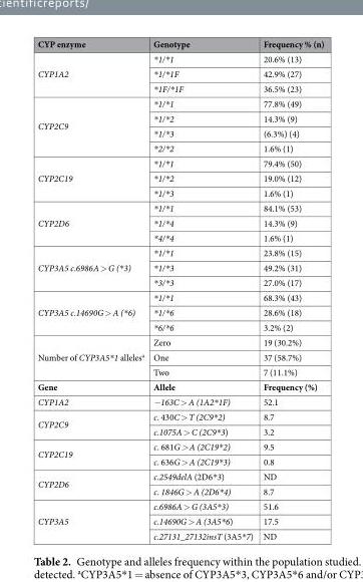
<table><thead><tr><td>CYP enzyme</td><td>Genotype</td><td>Frequency % (n)</td></tr></thead><tbody><tr><td rowspan="3">CYP1A2</td><td>*1/*1</td><td>20.6% (13)</td></tr><tr><td>*1/*1F</td><td>42.9% (27)</td></tr><tr><td>*1F/*1F</td><td>36.5% (23)</td></tr><tr><td rowspan="4">CYP2C9</td><td>*1/*1</td><td>77.8% (49)</td></tr><tr><td>*1/*2</td><td>14.3% (9)</td></tr><tr><td>*1/*3</td><td>(6.3%) (4)</td></tr><tr><td>*2/*2</td><td>1.6% (1)</td></tr><tr><td rowspan="3">CYP2C19</td><td>*1/*1</td><td>79.4% (50)</td></tr><tr><td>*1/*2</td><td>19.0% (12)</td></tr><tr><td>*1/*3</td><td>1.6% (1)</td></tr><tr><td rowspan="3">CYP2D6</td><td>*1/*1</td><td>84.1% (53)</td></tr><tr><td>*1/*4</td><td>14.3% (9)</td></tr><tr><td>*4/*4</td><td>1.6% (1)</td></tr><tr><td rowspan="3">CYP3A5 c.6986A &gt; G (*3)</td><td>*1/*1</td><td>23.8% (15)</td></tr><tr><td>*1/*3</td><td>49.2% (31)</td></tr><tr><td>*3/*3</td><td>27.0% (17)</td></tr><tr><td rowspan="3">CYP3A5 c.14690G &gt; A (*6)</td><td>*1/*1</td><td>68.3% (43)</td></tr><tr><td>*1/*6</td><td>28.6% (18)</td></tr><tr><td>*6/*6</td><td>3.2% (2)</td></tr><tr><td rowspan="3">Number of CYP3A5*1 alleles<sup>a</sup></td><td>Zero</td><td>19 (30.2%)</td></tr><tr><td>One</td><td>37 (58.7%)</td></tr><tr><td>Two</td><td>7 (11.1%)</td></tr><tr><td>Gene</td><td>Allele</td><td>Frequency (%)</td></tr><tr><td>CYP1A2</td><td>−163C &gt; A (1A2*1F)</td><td>52.1</td></tr><tr><td rowspan="2">CYP2C9</td><td>c. 430C &gt; T (2C9*2)</td><td>8.7</td></tr><tr><td>c.1075A &gt; C (2C9*3)</td><td>3.2</td></tr><tr><td rowspan="2">CYP2C19</td><td>c. 681G &gt; A (2C19*2)</td><td>9.5</td></tr><tr><td>c. 636G &gt; A (2C19*3)</td><td>0.8</td></tr><tr><td rowspan="2">CYP2D6</td><td>c.2549delA (2D6*3)</td><td>ND</td></tr><tr><td>c. 1846G &gt; A (2D6*4)</td><td>8.7</td></tr><tr><td rowspan="3">CYP3A5</td><td>c.6986A &gt; G (3A5*3)</td><td>51.6</td></tr><tr><td>c.14690G &gt; A (3A5*6)</td><td>17.5</td></tr><tr><td>c.27131_27132insT (3A5*7)</td><td>ND</td></tr></tbody></table>